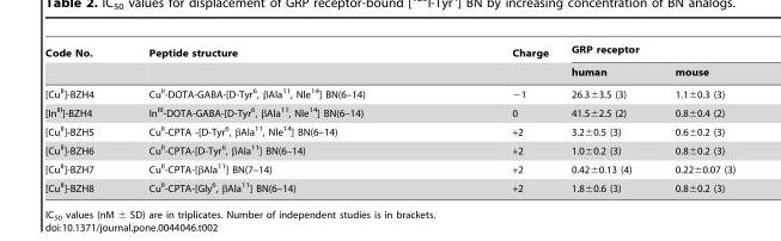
<table><thead><tr><td rowspan="2">Code No.</td><td rowspan="2">Peptide structure</td><td rowspan="2">Charge</td><td colspan="2">GRP receptor</td></tr><tr><td>human</td><td>mouse</td></tr></thead><tbody><tr><td>[Cu<sup>II</sup>]-BZH4</td><td>Cu<sup>II</sup>-DOTA-GABA-[D-Tyr<sup>6</sup>, βAla<sup>11</sup>, Nle<sup>14</sup>] BN(6–14)</td><td>−1</td><td>26.3±3.5 (3)</td><td>1.1±0.3 (3)</td></tr><tr><td>[In<sup>III</sup>]-BZH4</td><td>In<sup>III</sup>-DOTA-GABA-[D-Tyr<sup>6</sup>, βAla<sup>11</sup>, Nle<sup>14</sup>] BN(6–14)</td><td>0</td><td>41.5±2.5 (2)</td><td>0.8±0.4 (2)</td></tr><tr><td>[Cu<sup>II</sup>]-BZH5</td><td>Cu<sup>II</sup>-CPTA -[D-Tyr<sup>6</sup>, βAla<sup>11</sup>, Nle<sup>14</sup>] BN(6–14)</td><td>+2</td><td>3.2±0.5 (3)</td><td>0.6±0.2 (3)</td></tr><tr><td>[Cu<sup>II</sup>]-BZH6</td><td>Cu<sup>II</sup>-CPTA-[D-Tyr<sup>6</sup>, βAla<sup>11</sup>] BN(6–14)</td><td>+2</td><td>1.0±0.2 (3)</td><td>0.8±0.2 (3)</td></tr><tr><td>[Cu<sup>II</sup>]-BZH7</td><td>Cu<sup>II</sup>-CPTA-[βAla<sup>11</sup>] BN(7–14)</td><td>+2</td><td>0.42±0.13 (4)</td><td>0.22±0.07 (3)</td></tr><tr><td>[Cu<sup>II</sup>]-BZH8</td><td>Cu<sup>II</sup>-CPTA-[Gly<sup>6</sup>, βAla<sup>11</sup>] BN(6–14)</td><td>+2</td><td>1.8±0.6 (3)</td><td>0.8±0.2 (3)</td></tr></tbody></table>